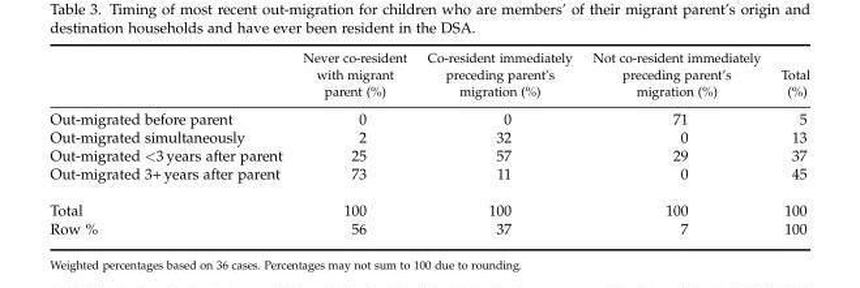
<table><thead><tr><td></td><td>Never co-resident with migrant parent (%)</td><td>Co-resident immediately preceding parent’s migration (%)</td><td>Not co-resident immediately preceding parent’s migration (%)</td><td>Total (%)</td></tr></thead><tbody><tr><td>Out-migrated before parent</td><td>0</td><td>0</td><td>71</td><td>5</td></tr><tr><td>Out-migrated simultaneously</td><td>2</td><td>32</td><td>0</td><td>13</td></tr><tr><td>Out-migrated &lt;3 years after parent</td><td>25</td><td>57</td><td>29</td><td>37</td></tr><tr><td>Out-migrated 3+ years after parent</td><td>73</td><td>11</td><td>0</td><td>45</td></tr><tr><td>Total</td><td>100</td><td>100</td><td>100</td><td>100</td></tr><tr><td>Row %</td><td>56</td><td>37</td><td>7</td><td>100</td></tr></tbody></table>